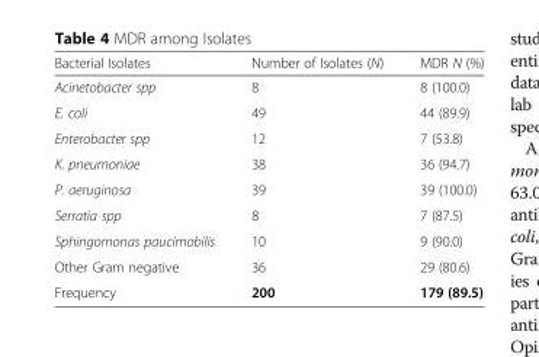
<table><thead><tr><td>Bacterial Isolates</td><td>Number of Isolates (N)</td><td>MDR N (%)</td></tr></thead><tbody><tr><td>Acinetobacter spp</td><td>8</td><td>8 (100.0)</td></tr><tr><td>E. coli</td><td>49</td><td>44 (89.9)</td></tr><tr><td>Enterobacter spp</td><td>12</td><td>7 (53.8)</td></tr><tr><td>K. pneumoniae</td><td>38</td><td>36 (94.7)</td></tr><tr><td>P. aeruginosa</td><td>39</td><td>39 (100.0)</td></tr><tr><td>Serratia spp</td><td>8</td><td>7 (87.5)</td></tr><tr><td>Sphingomonas paucimobilis</td><td>10</td><td>9 (90.0)</td></tr><tr><td>Other Gram negative</td><td>36</td><td>29 (80.6)</td></tr><tr><td>Frequency</td><td>200</td><td>179 (89.5)</td></tr></tbody></table>